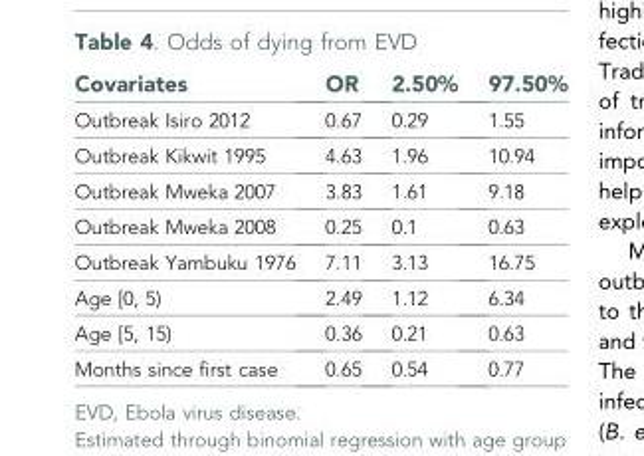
<table><thead><tr><td>Covariates</td><td>OR</td><td>2.50%</td><td>97.50%</td></tr></thead><tbody><tr><td>Outbreak Isiro 2012</td><td>0.67</td><td>0.29</td><td>1.55</td></tr><tr><td>Outbreak Kikwit 1995</td><td>4.63</td><td>1.96</td><td>10.94</td></tr><tr><td>Outbreak Mweka 2007</td><td>3.83</td><td>1.61</td><td>9.18</td></tr><tr><td>Outbreak Mweka 2008</td><td>0.25</td><td>0.1</td><td>0.63</td></tr><tr><td>Outbreak Yambuku 1976</td><td>7.11</td><td>3.13</td><td>16.75</td></tr><tr><td>Age [0, 5)</td><td>2.49</td><td>1.12</td><td>6.34</td></tr><tr><td>Age [5, 15)</td><td>0.36</td><td>0.21</td><td>0.63</td></tr><tr><td>Months since first case</td><td>0.65</td><td>0.54</td><td>0.77</td></tr></tbody></table>